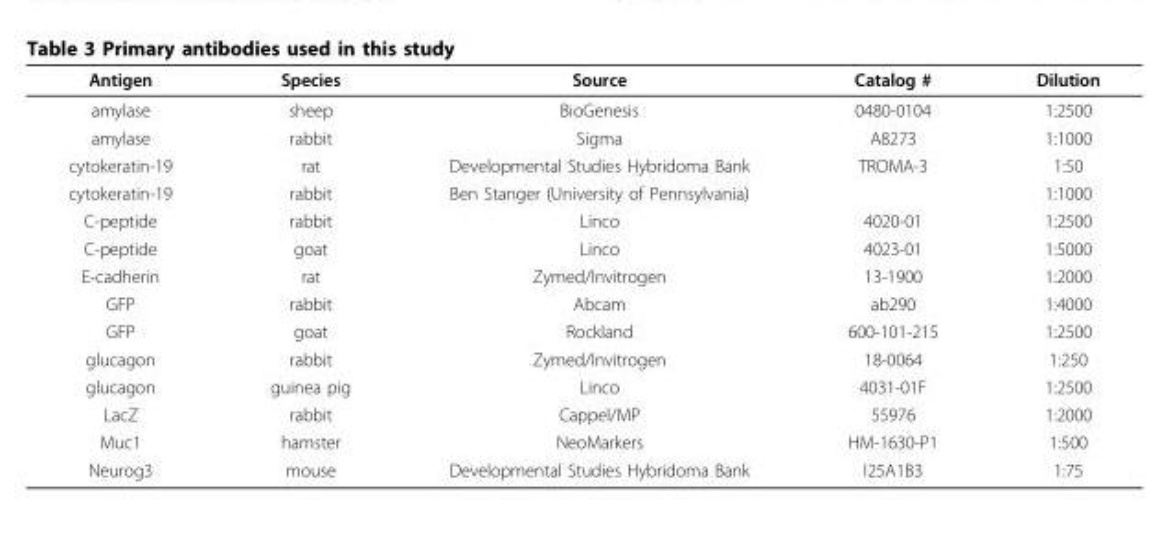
<table><thead><tr><td>Antigen</td><td>Species</td><td>Source</td><td>Catalog #</td><td>Dilution</td></tr></thead><tbody><tr><td>amylase</td><td>sheep</td><td>BioGenesis</td><td>0480-0104</td><td>1:2500</td></tr><tr><td>amylase</td><td>rabbit</td><td>Sigma</td><td>A8273</td><td>1:1000</td></tr><tr><td>cytokeratin-19</td><td>rat</td><td>Developmental Studies Hybridoma Bank</td><td>TROMA-3</td><td>1:50</td></tr><tr><td>cytokeratin-19</td><td>rabbit</td><td>Ben Stanger (University of Pennsylvania)</td><td></td><td>1:1000</td></tr><tr><td>C-peptide</td><td>rabbit</td><td>Linco</td><td>4020-01</td><td>1:2500</td></tr><tr><td>C-peptide</td><td>goat</td><td>Linco</td><td>4023-01</td><td>1:5000</td></tr><tr><td>E-cadherin</td><td>rat</td><td>Zymed/Invitrogen</td><td>13-1900</td><td>1:2000</td></tr><tr><td>GFP</td><td>rabbit</td><td>Abcam</td><td>ab290</td><td>1:4000</td></tr><tr><td>GFP</td><td>goat</td><td>Rockland</td><td>600-101-215</td><td>1:2500</td></tr><tr><td>glucagon</td><td>rabbit</td><td>Zymed/Invitrogen</td><td>18-0064</td><td>1:250</td></tr><tr><td>glucagon</td><td>guinea pig</td><td>Linco</td><td>4031-01F</td><td>1:2500</td></tr><tr><td>LacZ</td><td>rabbit</td><td>Cappel/MP</td><td>55976</td><td>1:2000</td></tr><tr><td>Muc1</td><td>hamster</td><td>NeoMarkers</td><td>HM-1630-P1</td><td>1:500</td></tr><tr><td>Neurog3</td><td>mouse</td><td>Developmental Studies Hybridoma Bank</td><td>I25A1B3</td><td>1:75</td></tr></tbody></table>